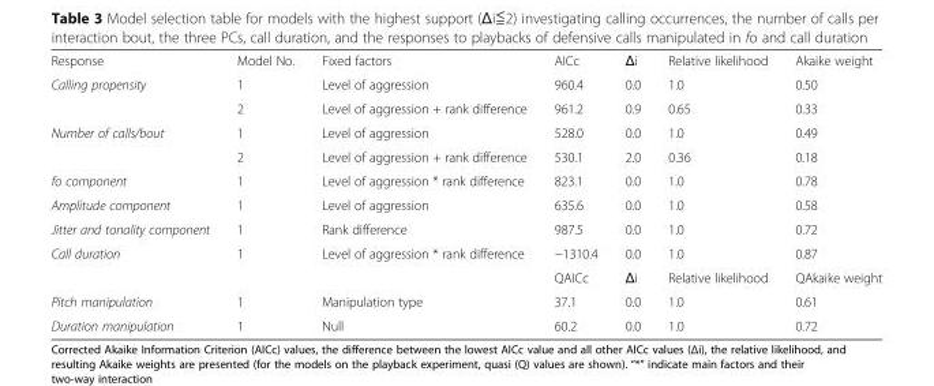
<table><tbody><tr><td>Response</td><td>Model No.</td><td>Fixed factors</td><td>AICc</td><td>Δi</td><td>Relative likelihood</td><td>Akaike weight</td></tr><tr><td rowspan="2">Calling propensity</td><td>1</td><td>Level of aggression</td><td>960.4</td><td>0.0</td><td>1.0</td><td>0.50</td></tr><tr><td>2</td><td>Level of aggression + rank difference</td><td>961.2</td><td>0.9</td><td>0.65</td><td>0.33</td></tr><tr><td rowspan="2">Number of calls/bout</td><td>1</td><td>Level of aggression</td><td>528.0</td><td>0.0</td><td>1.0</td><td>0.49</td></tr><tr><td>2</td><td>Level of aggression + rank difference</td><td>530.1</td><td>2.0</td><td>0.36</td><td>0.18</td></tr><tr><td>fo component</td><td>1</td><td>Level of aggression * rank difference</td><td>823.1</td><td>0.0</td><td>1.0</td><td>0.78</td></tr><tr><td>Amplitude component</td><td>1</td><td>Level of aggression</td><td>635.6</td><td>0.0</td><td>1.0</td><td>0.58</td></tr><tr><td>Jitter and tonality component</td><td>1</td><td>Rank difference</td><td>987.5</td><td>0.0</td><td>1.0</td><td>0.72</td></tr><tr><td rowspan="2">Call duration</td><td>1</td><td>Level of aggression * rank difference</td><td>−1310.4</td><td>0.0</td><td>1.0</td><td>0.87</td></tr><tr><td></td><td></td><td>QAICc</td><td>Δi</td><td>Relative likelihood</td><td>QAkaike weight</td></tr><tr><td>Pitch manipulation</td><td>1</td><td>Manipulation type</td><td>37.1</td><td>0.0</td><td>1.0</td><td>0.61</td></tr><tr><td>Duration manipulation</td><td>1</td><td>Null</td><td>60.2</td><td>0.0</td><td>1.0</td><td>0.72</td></tr></tbody></table>